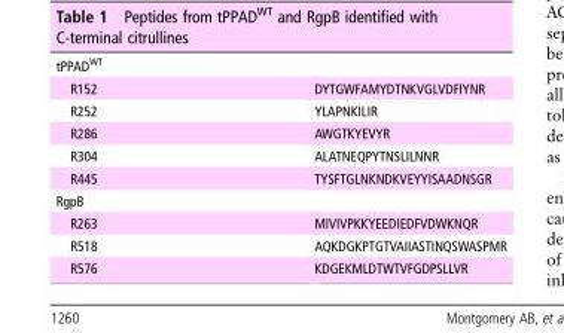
<table><tbody><tr><td colspan="2">tPPAD<sup>WT</sup></td></tr><tr><td>R152</td><td>DYTGWFAMYDTNKVGLVDFIYNR</td></tr><tr><td>R252</td><td>YLAPNKILIR</td></tr><tr><td>R286</td><td>AWGTKYEVYR</td></tr><tr><td>R304</td><td>ALATNEQPYTNSLILNNR</td></tr><tr><td>R445</td><td>TYSFTGLNKNDKVEYYISAADNSGR</td></tr><tr><td colspan="2">RgpB</td></tr><tr><td>R263</td><td>MIVIVPKKYEEDIEDFVDWKNQR</td></tr><tr><td>R518</td><td>AQKDGKPTGTVAIIASTINQSWASPMR</td></tr><tr><td>R576</td><td>KDGEKMLDTWTVFGDPSLLVR</td></tr></tbody></table>